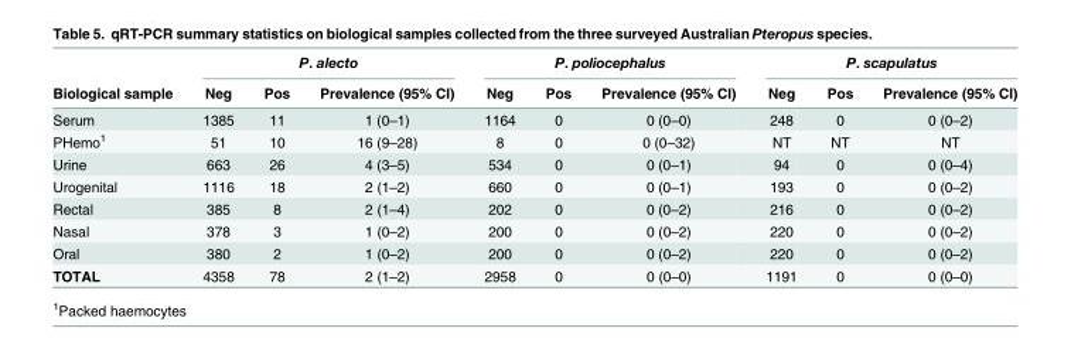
<table><thead><tr><td rowspan="2">Biological sample</td><td colspan="3">P. alecto</td><td colspan="3">P. poliocephalus</td><td colspan="3">P. scapulatus</td></tr><tr><td>Neg</td><td>Pos</td><td>Prevalence (95% CI)</td><td>Neg</td><td>Pos</td><td>Prevalence (95% CI)</td><td>Neg</td><td>Pos</td><td>Prevalence (95% CI)</td></tr></thead><tbody><tr><td>Serum</td><td>1385</td><td>11</td><td>1 (0–1)</td><td>1164</td><td>0</td><td>0 (0–0)</td><td>248</td><td>0</td><td>0 (0–2)</td></tr><tr><td>PHemo<sup>1</sup></td><td>51</td><td>10</td><td>16 (9–28)</td><td>8</td><td>0</td><td>0 (0–32)</td><td>NT</td><td>NT</td><td>NT</td></tr><tr><td>Urine</td><td>663</td><td>26</td><td>4 (3–5)</td><td>534</td><td>0</td><td>0 (0–1)</td><td>94</td><td>0</td><td>0 (0–4)</td></tr><tr><td>Urogenital</td><td>1116</td><td>18</td><td>2 (1–2)</td><td>660</td><td>0</td><td>0 (0–1)</td><td>193</td><td>0</td><td>0 (0–2)</td></tr><tr><td>Rectal</td><td>385</td><td>8</td><td>2 (1–4)</td><td>202</td><td>0</td><td>0 (0–2)</td><td>216</td><td>0</td><td>0 (0–2)</td></tr><tr><td>Nasal</td><td>378</td><td>3</td><td>1 (0–2)</td><td>200</td><td>0</td><td>0 (0–2)</td><td>220</td><td>0</td><td>0 (0–2)</td></tr><tr><td>Oral</td><td>380</td><td>2</td><td>1 (0–2)</td><td>200</td><td>0</td><td>0 (0–2)</td><td>220</td><td>0</td><td>0 (0–2)</td></tr><tr><td>TOTAL</td><td>4358</td><td>78</td><td>2 (1–2)</td><td>2958</td><td>0</td><td>0 (0–0)</td><td>1191</td><td>0</td><td>0 (0–0)</td></tr></tbody></table>